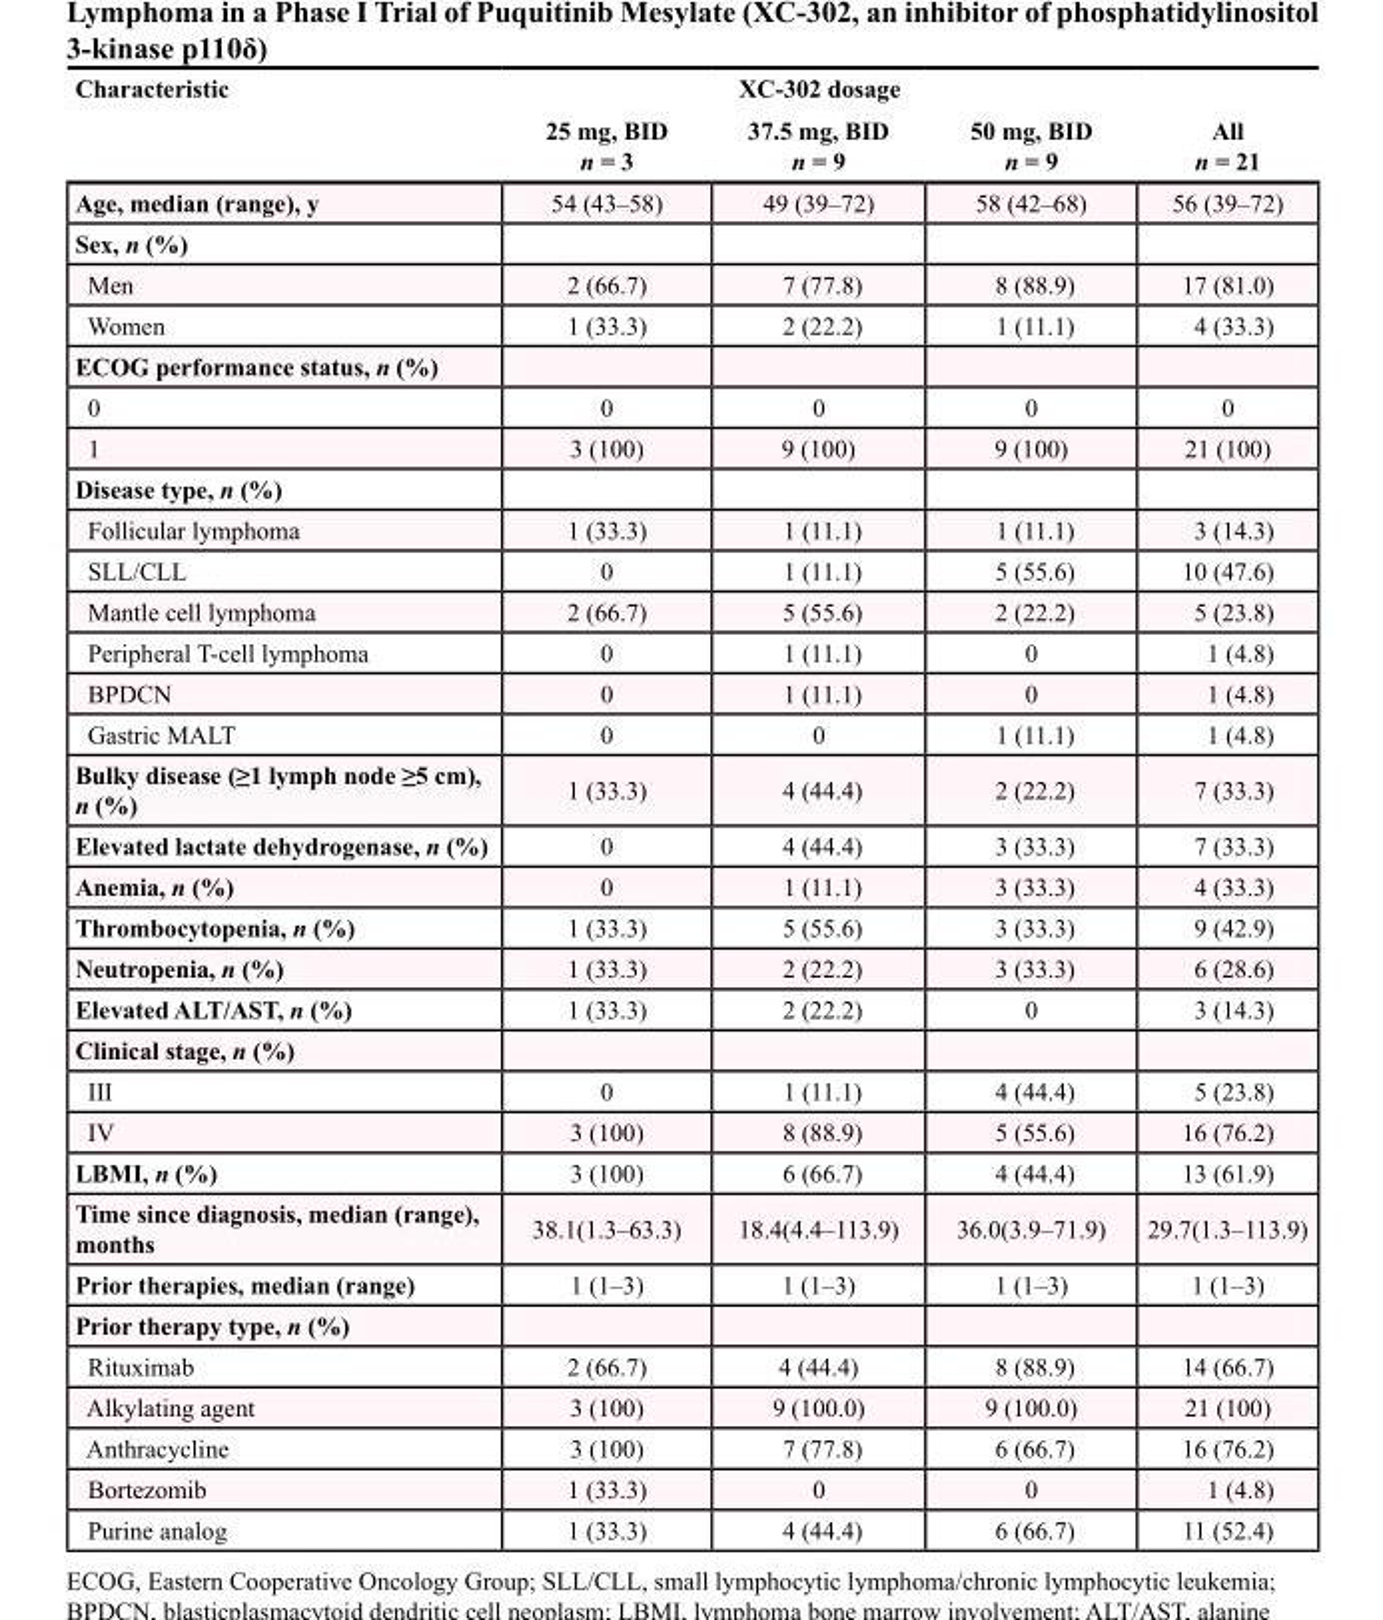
<table><thead><tr><td rowspan="2">Characteristic</td><td colspan="4">XC-302 dosage</td></tr><tr><td>25 mg, BID n = 3</td><td>37.5 mg, BID n = 9</td><td>50 mg, BID n = 9</td><td>All n = 21</td></tr></thead><tbody><tr><td>Age, median (range), y</td><td>54 (43–58)</td><td>49 (39–72)</td><td>58 (42–68)</td><td>56 (39–72)</td></tr><tr><td colspan="5">Sex, n (%)</td></tr><tr><td>Men</td><td>2 (66.7)</td><td>7 (77.8)</td><td>8 (88.9)</td><td>17 (81.0)</td></tr><tr><td>Women</td><td>1 (33.3)</td><td>2 (22.2)</td><td>1 (11.1)</td><td>4 (33.3)</td></tr><tr><td colspan="5">ECOG performance status, n (%)</td></tr><tr><td>0</td><td>0</td><td>0</td><td>0</td><td>0</td></tr><tr><td>1</td><td>3 (100)</td><td>9 (100)</td><td>9 (100)</td><td>21 (100)</td></tr><tr><td colspan="5">Disease type, n (%)</td></tr><tr><td>Follicular lymphoma</td><td>1 (33.3)</td><td>1 (11.1)</td><td>1 (11.1)</td><td>3 (14.3)</td></tr><tr><td>SLL/CLL</td><td>0</td><td>1 (11.1)</td><td>5 (55.6)</td><td>10 (47.6)</td></tr><tr><td>Mantle cell lymphoma</td><td>2 (66.7)</td><td>5 (55.6)</td><td>2 (22.2)</td><td>5 (23.8)</td></tr><tr><td>Peripheral T-cell lymphoma</td><td>0</td><td>1 (11.1)</td><td>0</td><td>1 (4.8)</td></tr><tr><td>BPDCN</td><td>0</td><td>1 (11.1)</td><td>0</td><td>1 (4.8)</td></tr><tr><td>Gastric MALT</td><td>0</td><td>0</td><td>1 (11.1)</td><td>1 (4.8)</td></tr><tr><td>Bulky disease (≥1 lymph node ≥5 cm), n (%)</td><td>1 (33.3)</td><td>4 (44.4)</td><td>2 (22.2)</td><td>7 (33.3)</td></tr><tr><td>Elevated lactate dehydrogenase, n (%)</td><td>0</td><td>4 (44.4)</td><td>3 (33.3)</td><td>7 (33.3)</td></tr><tr><td>Anemia, n (%)</td><td>0</td><td>1 (11.1)</td><td>3 (33.3)</td><td>4 (33.3)</td></tr><tr><td>Thrombocytopenia, n (%)</td><td>1 (33.3)</td><td>5 (55.6)</td><td>3 (33.3)</td><td>9 (42.9)</td></tr><tr><td>Neutropenia, n (%)</td><td>1 (33.3)</td><td>2 (22.2)</td><td>3 (33.3)</td><td>6 (28.6)</td></tr><tr><td>Elevated ALT/AST, n (%)</td><td>1 (33.3)</td><td>2 (22.2)</td><td>0</td><td>3 (14.3)</td></tr><tr><td colspan="5">Clinical stage, n (%)</td></tr><tr><td>III</td><td>0</td><td>1 (11.1)</td><td>4 (44.4)</td><td>5 (23.8)</td></tr><tr><td>IV</td><td>3 (100)</td><td>8 (88.9)</td><td>5 (55.6)</td><td>16 (76.2)</td></tr><tr><td>LBMI, n (%)</td><td>3 (100)</td><td>6 (66.7)</td><td>4 (44.4)</td><td>13 (61.9)</td></tr><tr><td>Time since diagnosis, median (range), months</td><td>38.1(1.3–63.3)</td><td>18.4(4.4–113.9)</td><td>36.0(3.9–71.9)</td><td>29.7(1.3–113.9)</td></tr><tr><td>Prior therapies, median (range)</td><td>1 (1–3)</td><td>1 (1–3)</td><td>1 (1–3)</td><td>1 (1–3)</td></tr><tr><td colspan="5">Prior therapy type, n (%)</td></tr><tr><td>Rituximab</td><td>2 (66.7)</td><td>4 (44.4)</td><td>8 (88.9)</td><td>14 (66.7)</td></tr><tr><td>Alkylating agent</td><td>3 (100)</td><td>9 (100.0)</td><td>9 (100.0)</td><td>21 (100)</td></tr><tr><td>Anthracycline</td><td>3 (100)</td><td>7 (77.8)</td><td>6 (66.7)</td><td>16 (76.2)</td></tr><tr><td>Bortezomib</td><td>1 (33.3)</td><td>0</td><td>0</td><td>1 (4.8)</td></tr><tr><td>Purine analog</td><td>1 (33.3)</td><td>4 (44.4)</td><td>6 (66.7)</td><td>11 (52.4)</td></tr></tbody></table>